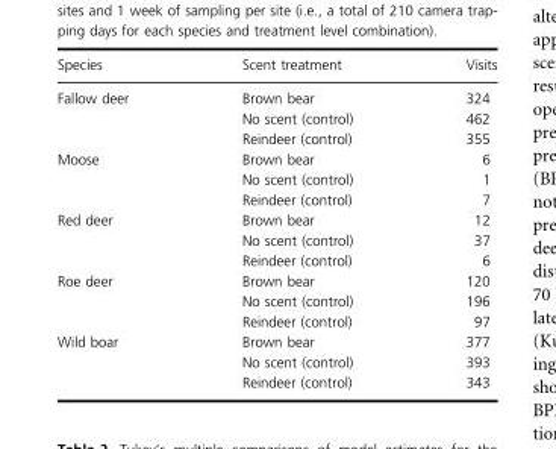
<table><thead><tr><td>Species</td><td>Scent treatment</td><td>Visits</td></tr></thead><tbody><tr><td rowspan="3">Fallow deer</td><td>Brown bear</td><td>324</td></tr><tr><td>No scent (control)</td><td>462</td></tr><tr><td>Reindeer (control)</td><td>355</td></tr><tr><td rowspan="3">Moose</td><td>Brown bear</td><td>6</td></tr><tr><td>No scent (control)</td><td>1</td></tr><tr><td>Reindeer (control)</td><td>7</td></tr><tr><td rowspan="3">Red deer</td><td>Brown bear</td><td>12</td></tr><tr><td>No scent (control)</td><td>37</td></tr><tr><td>Reindeer (control)</td><td>6</td></tr><tr><td rowspan="3">Roe deer</td><td>Brown bear</td><td>120</td></tr><tr><td>No scent (control)</td><td>196</td></tr><tr><td>Reindeer (control)</td><td>97</td></tr><tr><td rowspan="3">Wild boar</td><td>Brown bear</td><td>377</td></tr><tr><td>No scent (control)</td><td>393</td></tr><tr><td>Reindeer (control)</td><td>343</td></tr></tbody></table>